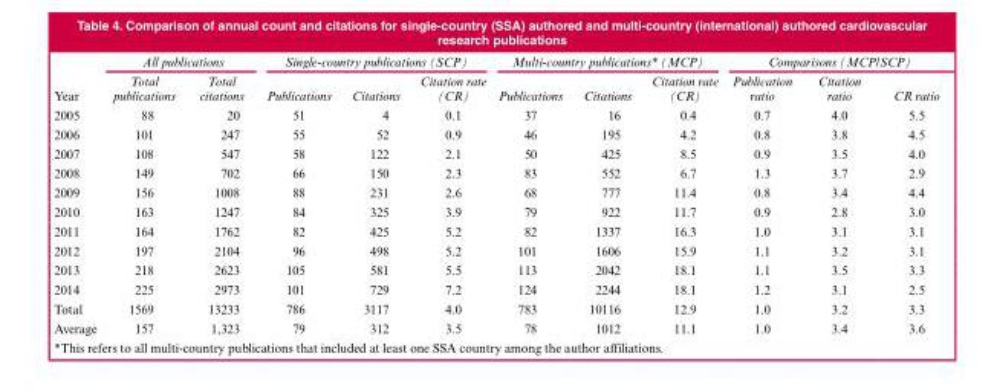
<table><thead><tr><td rowspan="2">Year</td><td colspan="2">All publications</td><td colspan="3">Single-country publications (SCP)</td><td colspan="3">Multi-country publications* (MCP)</td><td colspan="3">Comparisons (MCP/SCP)</td></tr><tr><td>Total publications</td><td>Total citations</td><td>Publications</td><td>Citations</td><td>Citation rate (CR)</td><td>Publications</td><td>Citations</td><td>Citation rate (CR)</td><td>Publication ratio</td><td>Citation ratio</td><td>CR ratio</td></tr></thead><tbody><tr><td>2005</td><td>88</td><td>20</td><td>51</td><td>4</td><td>0.1</td><td>37</td><td>16</td><td>0.4</td><td>0.7</td><td>4.0</td><td>5.5</td></tr><tr><td>2006</td><td>101</td><td>247</td><td>55</td><td>52</td><td>0.9</td><td>46</td><td>195</td><td>4.2</td><td>0.8</td><td>3.8</td><td>4.5</td></tr><tr><td>2007</td><td>108</td><td>547</td><td>58</td><td>122</td><td>2.1</td><td>50</td><td>425</td><td>8.5</td><td>0.9</td><td>3.5</td><td>4.0</td></tr><tr><td>2008</td><td>149</td><td>702</td><td>66</td><td>150</td><td>2.3</td><td>83</td><td>552</td><td>6.7</td><td>1.3</td><td>3.7</td><td>2.9</td></tr><tr><td>2009</td><td>156</td><td>1008</td><td>88</td><td>231</td><td>2.6</td><td>68</td><td>777</td><td>11.4</td><td>0.8</td><td>3.4</td><td>4.4</td></tr><tr><td>2010</td><td>163</td><td>1247</td><td>84</td><td>325</td><td>3.9</td><td>79</td><td>922</td><td>11.7</td><td>0.9</td><td>2.8</td><td>3.0</td></tr><tr><td>2011</td><td>164</td><td>1762</td><td>82</td><td>425</td><td>5.2</td><td>82</td><td>1337</td><td>16.3</td><td>1.0</td><td>3.1</td><td>3.1</td></tr><tr><td>2012</td><td>197</td><td>2104</td><td>96</td><td>498</td><td>5.2</td><td>101</td><td>1606</td><td>15.9</td><td>1.1</td><td>3.2</td><td>3.1</td></tr><tr><td>2013</td><td>218</td><td>2623</td><td>105</td><td>581</td><td>5.5</td><td>113</td><td>2042</td><td>18.1</td><td>1.1</td><td>3.5</td><td>3.3</td></tr><tr><td>2014</td><td>225</td><td>2973</td><td>101</td><td>729</td><td>7.2</td><td>124</td><td>2244</td><td>18.1</td><td>1.2</td><td>3.1</td><td>2.5</td></tr><tr><td>Total</td><td>1569</td><td>13233</td><td>786</td><td>3117</td><td>4.0</td><td>783</td><td>10116</td><td>12.9</td><td>1.0</td><td>3.2</td><td>3.3</td></tr><tr><td>Average</td><td>157</td><td>1,323</td><td>79</td><td>312</td><td>3.5</td><td>78</td><td>1012</td><td>11.1</td><td>1.0</td><td>3.4</td><td>3.6</td></tr></tbody></table>